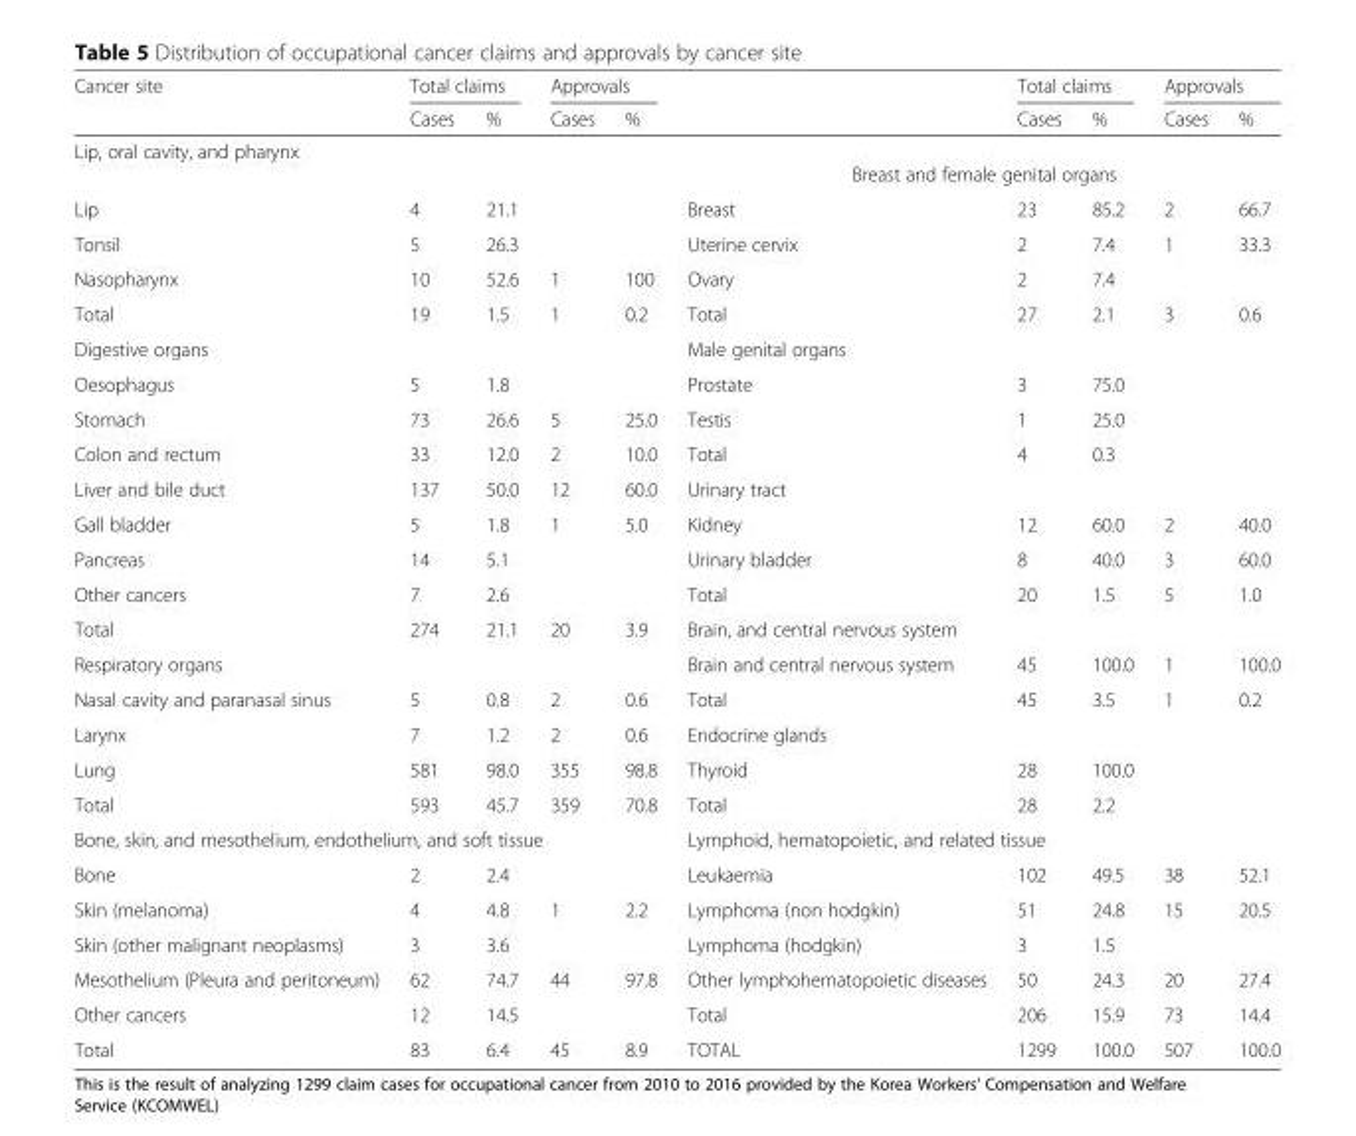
<table><thead><tr><td rowspan="2">Cancer site</td><td colspan="2">Total claims</td><td colspan="2">Approvals</td><td rowspan="2"></td><td colspan="2">Total claims</td><td colspan="2">Approvals</td></tr><tr><td>Cases</td><td>%</td><td>Cases</td><td>%</td><td>Cases</td><td>%</td><td>Cases</td><td>%</td></tr></thead><tbody><tr><td colspan="5">Lip, oral cavity, and pharynx</td><td colspan="5">Breast and female genital organs</td></tr><tr><td>Lip</td><td>4</td><td>21.1</td><td></td><td></td><td>Breast</td><td>23</td><td>85.2</td><td>2</td><td>66.7</td></tr><tr><td>Tonsil</td><td>5</td><td>26.3</td><td></td><td></td><td>Uterine cervix</td><td>2</td><td>7.4</td><td>1</td><td>33.3</td></tr><tr><td>Nasopharynx</td><td>10</td><td>52.6</td><td>1</td><td>100</td><td>Ovary</td><td>2</td><td>7.4</td><td></td><td></td></tr><tr><td>Total</td><td>19</td><td>1.5</td><td>1</td><td>0.2</td><td>Total</td><td>27</td><td>2.1</td><td>3</td><td>0.6</td></tr><tr><td colspan="5">Digestive organs</td><td colspan="5">Male genital organs</td></tr><tr><td>Oesophagus</td><td>5</td><td>1.8</td><td></td><td></td><td>Prostate</td><td>3</td><td>75.0</td><td></td><td></td></tr><tr><td>Stomach</td><td>73</td><td>26.6</td><td>5</td><td>25.0</td><td>Testis</td><td>1</td><td>25.0</td><td></td><td></td></tr><tr><td>Colon and rectum</td><td>33</td><td>12.0</td><td>2</td><td>10.0</td><td>Total</td><td>4</td><td>0.3</td><td></td><td></td></tr><tr><td>Liver and bile duct</td><td>137</td><td>50.0</td><td>12</td><td>60.0</td><td colspan="5">Urinary tract</td></tr><tr><td>Gall bladder</td><td>5</td><td>1.8</td><td>1</td><td>5.0</td><td>Kidney</td><td>12</td><td>60.0</td><td>2</td><td>40.0</td></tr><tr><td>Pancreas</td><td>14</td><td>5.1</td><td></td><td></td><td>Urinary bladder</td><td>8</td><td>40.0</td><td>3</td><td>60.0</td></tr><tr><td>Other cancers</td><td>7</td><td>2.6</td><td></td><td></td><td>Total</td><td>20</td><td>1.5</td><td>5</td><td>1.0</td></tr><tr><td>Total</td><td>274</td><td>21.1</td><td>20</td><td>3.9</td><td colspan="5">Brain, and central nervous system</td></tr><tr><td colspan="5">Respiratory organs</td><td>Brain and central nervous system</td><td>45</td><td>100.0</td><td>1</td><td>100.0</td></tr><tr><td>Nasal cavity and paranasal sinus</td><td>5</td><td>0.8</td><td>2</td><td>0.6</td><td>Total</td><td>45</td><td>3.5</td><td>1</td><td>0.2</td></tr><tr><td>Larynx</td><td>7</td><td>1.2</td><td>2</td><td>0.6</td><td colspan="5">Endocrine glands</td></tr><tr><td>Lung</td><td>581</td><td>98.0</td><td>355</td><td>98.8</td><td>Thyroid</td><td>28</td><td>100.0</td><td></td><td></td></tr><tr><td>Total</td><td>593</td><td>45.7</td><td>359</td><td>70.8</td><td>Total</td><td>28</td><td>2.2</td><td></td><td></td></tr><tr><td colspan="5">Bone, skin, and mesothelium, endothelium, and soft tissue</td><td colspan="5">Lymphoid, hematopoietic, and related tissue</td></tr><tr><td>Bone</td><td>2</td><td>2.4</td><td></td><td></td><td>Leukaemia</td><td>102</td><td>49.5</td><td>38</td><td>52.1</td></tr><tr><td>Skin (melanoma)</td><td>4</td><td>4.8</td><td>1</td><td>2.2</td><td>Lymphoma (non hodgkin)</td><td>51</td><td>24.8</td><td>15</td><td>20.5</td></tr><tr><td>Skin (other malignant neoplasms)</td><td>3</td><td>3.6</td><td></td><td></td><td>Lymphoma (hodgkin)</td><td>3</td><td>1.5</td><td></td><td></td></tr><tr><td>Mesothelium (Pleura and peritoneum)</td><td>62</td><td>74.7</td><td>44</td><td>97.8</td><td>Other lymphohematopoietic diseases</td><td>50</td><td>24.3</td><td>20</td><td>27.4</td></tr><tr><td>Other cancers</td><td>12</td><td>14.5</td><td></td><td></td><td>Total</td><td>206</td><td>15.9</td><td>73</td><td>14.4</td></tr><tr><td>Total</td><td>83</td><td>6.4</td><td>45</td><td>8.9</td><td>TOTAL</td><td>1299</td><td>100.0</td><td>507</td><td>100.0</td></tr></tbody></table>